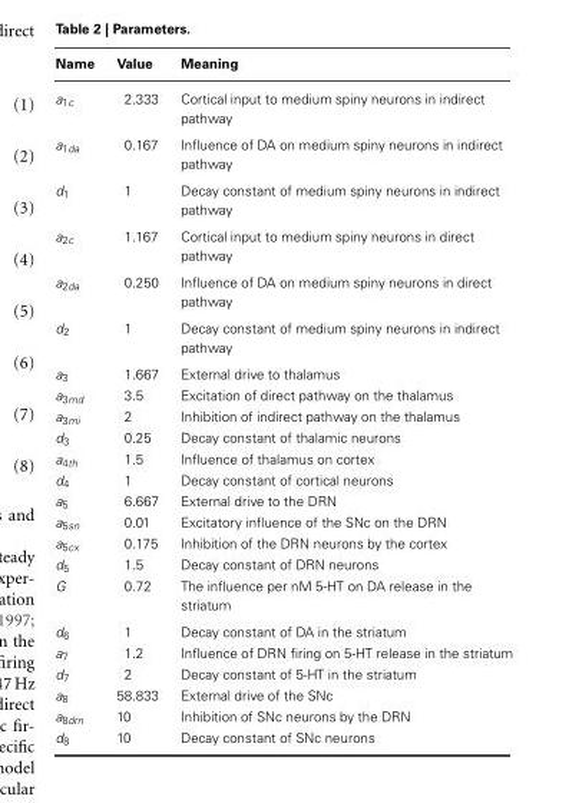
<table><thead><tr><td>Name</td><td>Value</td><td>Meaning</td></tr></thead><tbody><tr><td>a<sub>1c</sub></td><td>2.333</td><td>Cortical input to medium spiny neurons in indirect pathway</td></tr><tr><td>a<sub>1da</sub></td><td>0.167</td><td>Influence of DA on medium spiny neurons in indirect pathway</td></tr><tr><td>d<sub>1</sub></td><td>1</td><td>Decay constant of medium spiny neurons in indirect pathway</td></tr><tr><td>a<sub>2c</sub></td><td>1.167</td><td>Cortical input to medium spiny neurons in direct pathway</td></tr><tr><td>a<sub>2da</sub></td><td>0.250</td><td>Influence of DA on medium spiny neurons in direct pathway</td></tr><tr><td>d<sub>2</sub></td><td>1</td><td>Decay constant of medium spiny neurons in indirect pathway</td></tr><tr><td>a<sub>3</sub></td><td>1.667</td><td>External drive to thalamus</td></tr><tr><td>a<sub>3md</sub></td><td>3.5</td><td>Excitation of direct pathway on the thalamus</td></tr><tr><td>a<sub>3mi</sub></td><td>2</td><td>Inhibition of indirect pathway on the thalamus</td></tr><tr><td>d<sub>3</sub></td><td>0.25</td><td>Decay constant of thalamic neurons</td></tr><tr><td>a<sub>4th</sub></td><td>1.5</td><td>Influence of thalamus on cortex</td></tr><tr><td>d<sub>4</sub></td><td>1</td><td>Decay constant of cortical neurons</td></tr><tr><td>a<sub>5</sub></td><td>6.667</td><td>External drive to the DRN</td></tr><tr><td>a<sub>5sn</sub></td><td>0.01</td><td>Excitatory influence of the SNc on the DRN</td></tr><tr><td>a<sub>5cx</sub></td><td>0.175</td><td>Inhibition of the DRN neurons by the cortex</td></tr><tr><td>d<sub>5</sub></td><td>1.5</td><td>Decay constant of DRN neurons</td></tr><tr><td>G</td><td>0.72</td><td>The influence per nM 5-HT on DA release in the striatum</td></tr><tr><td>d<sub>6</sub></td><td>1</td><td>Decay constant of DA in the striatum</td></tr><tr><td>a<sub>7</sub></td><td>1.2</td><td>Influence of DRN firing on 5-HT release in the striatum</td></tr><tr><td>d<sub>7</sub></td><td>2</td><td>Decay constant of 5-HT in the striatum</td></tr><tr><td>a<sub>8</sub></td><td>58.833</td><td>External drive of the SNc</td></tr><tr><td>a<sub>8drn</sub></td><td>10</td><td>Inhibition of SNc neurons by the DRN</td></tr><tr><td>d<sub>8</sub></td><td>10</td><td>Decay constant of SNc neurons</td></tr></tbody></table>